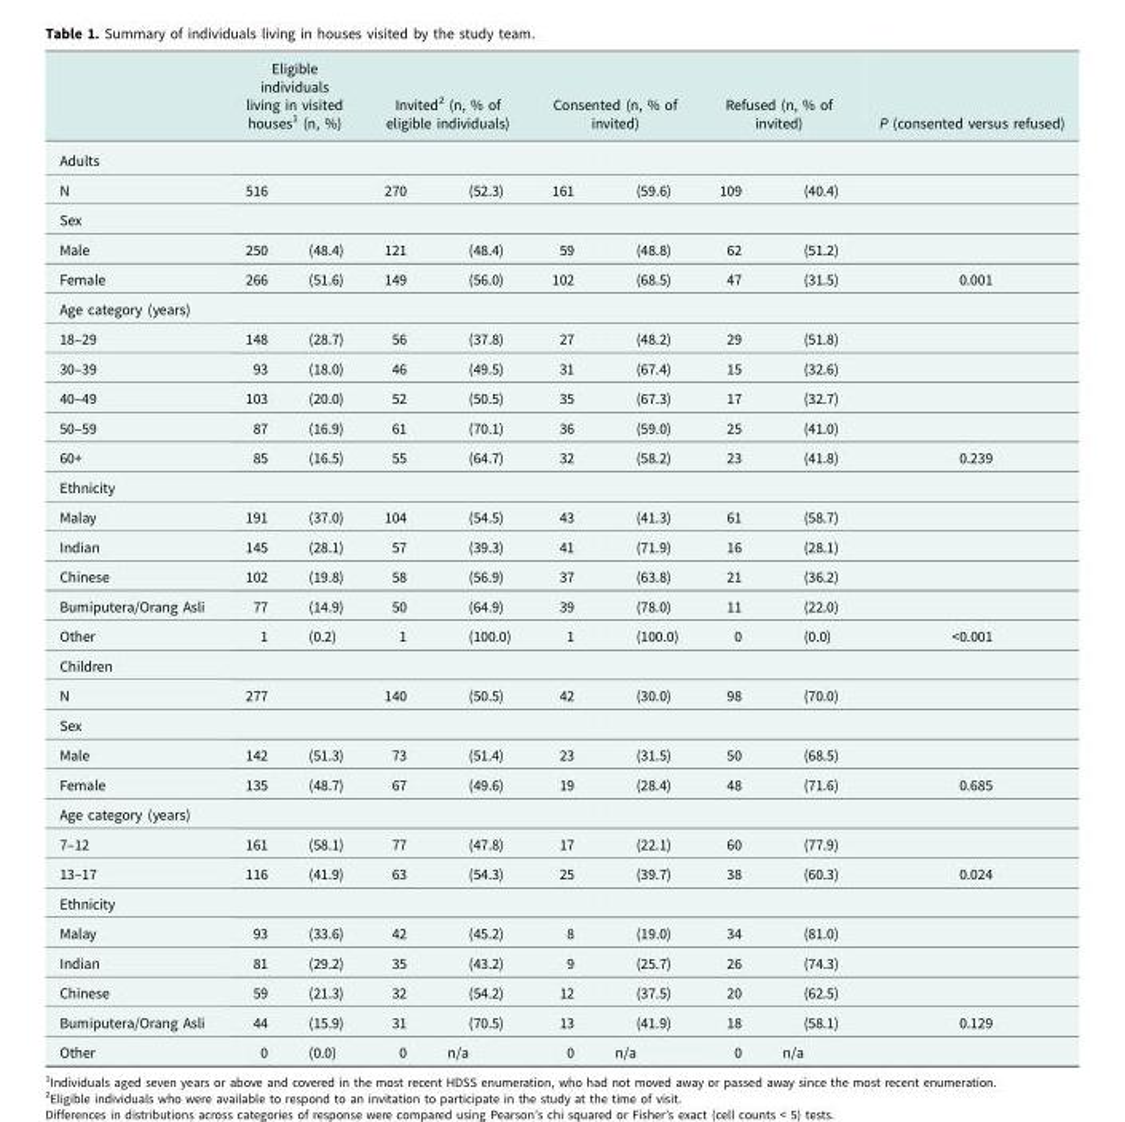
<table><thead><tr><td rowspan="2">Adults</td><td colspan="2">Eligible individuals living in visited houses<sup>1</sup> (n, %)</td><td colspan="2">Invited<sup>2</sup> (n, % of eligible individuals)</td><td colspan="2">Consented (n, % of invited)</td><td colspan="2">Refused (n, % of invited)</td><td rowspan="2">P (consented versus refused)</td></tr><tr><td></td><td></td><td></td><td></td><td></td><td></td><td></td><td></td></tr></thead><tbody><tr><td>N</td><td colspan="2">516</td><td>270</td><td>(52.3)</td><td>161</td><td>(59.6)</td><td>109</td><td>(40.4)</td><td></td></tr><tr><td colspan="10">Sex</td></tr><tr><td>Male</td><td>250</td><td>(48.4)</td><td>121</td><td>(48.4)</td><td>59</td><td>(48.8)</td><td>62</td><td>(51.2)</td><td></td></tr><tr><td>Female</td><td>266</td><td>(51.6)</td><td>149</td><td>(56.0)</td><td>102</td><td>(68.5)</td><td>47</td><td>(31.5)</td><td>0.001</td></tr><tr><td colspan="10">Age category (years)</td></tr><tr><td>18–29</td><td>148</td><td>(28.7)</td><td>56</td><td>(37.8)</td><td>27</td><td>(48.2)</td><td>29</td><td>(51.8)</td><td></td></tr><tr><td>30–39</td><td>93</td><td>(18.0)</td><td>46</td><td>(49.5)</td><td>31</td><td>(67.4)</td><td>15</td><td>(32.6)</td><td></td></tr><tr><td>40–49</td><td>103</td><td>(20.0)</td><td>52</td><td>(50.5)</td><td>35</td><td>(67.3)</td><td>17</td><td>(32.7)</td><td></td></tr><tr><td>50–59</td><td>87</td><td>(16.9)</td><td>61</td><td>(70.1)</td><td>36</td><td>(59.0)</td><td>25</td><td>(41.0)</td><td></td></tr><tr><td>60+</td><td>85</td><td>(16.5)</td><td>55</td><td>(64.7)</td><td>32</td><td>(58.2)</td><td>23</td><td>(41.8)</td><td>0.239</td></tr><tr><td colspan="10">Ethnicity</td></tr><tr><td>Malay</td><td>191</td><td>(37.0)</td><td>104</td><td>(54.5)</td><td>43</td><td>(41.3)</td><td>61</td><td>(58.7)</td><td></td></tr><tr><td>Indian</td><td>145</td><td>(28.1)</td><td>57</td><td>(39.3)</td><td>41</td><td>(71.9)</td><td>16</td><td>(28.1)</td><td></td></tr><tr><td>Chinese</td><td>102</td><td>(19.8)</td><td>58</td><td>(56.9)</td><td>37</td><td>(63.8)</td><td>21</td><td>(36.2)</td><td></td></tr><tr><td>Bumiputera/Orang Asli</td><td>77</td><td>(14.9)</td><td>50</td><td>(64.9)</td><td>39</td><td>(78.0)</td><td>11</td><td>(22.0)</td><td></td></tr><tr><td>Other</td><td>1</td><td>(0.2)</td><td>1</td><td>(100.0)</td><td>1</td><td>(100.0)</td><td>0</td><td>(0.0)</td><td>&lt;0.001</td></tr><tr><td colspan="10">Children</td></tr><tr><td>N</td><td colspan="2">277</td><td>140</td><td>(50.5)</td><td>42</td><td>(30.0)</td><td>98</td><td>(70.0)</td><td></td></tr><tr><td colspan="10">Sex</td></tr><tr><td>Male</td><td>142</td><td>(51.3)</td><td>73</td><td>(51.4)</td><td>23</td><td>(31.5)</td><td>50</td><td>(68.5)</td><td></td></tr><tr><td>Female</td><td>135</td><td>(48.7)</td><td>67</td><td>(49.6)</td><td>19</td><td>(28.4)</td><td>48</td><td>(71.6)</td><td>0.685</td></tr><tr><td colspan="10">Age category (years)</td></tr><tr><td>7–12</td><td>161</td><td>(58.1)</td><td>77</td><td>(47.8)</td><td>17</td><td>(22.1)</td><td>60</td><td>(77.9)</td><td></td></tr><tr><td>13–17</td><td>116</td><td>(41.9)</td><td>63</td><td>(54.3)</td><td>25</td><td>(39.7)</td><td>38</td><td>(60.3)</td><td>0.024</td></tr><tr><td colspan="10">Ethnicity</td></tr><tr><td>Malay</td><td>93</td><td>(33.6)</td><td>42</td><td>(45.2)</td><td>8</td><td>(19.0)</td><td>34</td><td>(81.0)</td><td></td></tr><tr><td>Indian</td><td>81</td><td>(29.2)</td><td>35</td><td>(43.2)</td><td>9</td><td>(25.7)</td><td>26</td><td>(74.3)</td><td></td></tr><tr><td>Chinese</td><td>59</td><td>(21.3)</td><td>32</td><td>(54.2)</td><td>12</td><td>(37.5)</td><td>20</td><td>(62.5)</td><td></td></tr><tr><td>Bumiputera/Orang Asli</td><td>44</td><td>(15.9)</td><td>31</td><td>(70.5)</td><td>13</td><td>(41.9)</td><td>18</td><td>(58.1)</td><td>0.129</td></tr><tr><td>Other</td><td>0</td><td>(0.0)</td><td>0</td><td>n/a</td><td>0</td><td>n/a</td><td>0</td><td>n/a</td><td></td></tr></tbody></table>